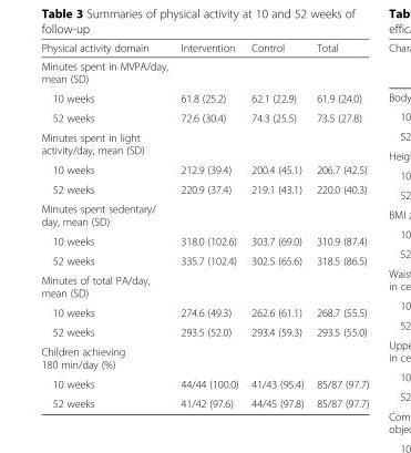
<table><thead><tr><td>Physical activity domain</td><td>Intervention</td><td>Control</td><td>Total</td></tr></thead><tbody><tr><td colspan="4">Minutes spent in MVPA/day, mean (SD)</td></tr><tr><td>10 weeks</td><td>61.8 (25.2)</td><td>62.1 (22.9)</td><td>61.9 (24.0)</td></tr><tr><td>52 weeks</td><td>72.6 (30.4)</td><td>74.3 (25.5)</td><td>73.5 (27.8)</td></tr><tr><td colspan="4">Minutes spent in light activity/day, mean (SD)</td></tr><tr><td>10 weeks</td><td>212.9 (39.4)</td><td>200.4 (45.1)</td><td>206.7 (42.5)</td></tr><tr><td>52 weeks</td><td>220.9 (37.4)</td><td>219.1 (43.1)</td><td>220.0 (40.3)</td></tr><tr><td colspan="4">Minutes spent sedentary/ day, mean (SD)</td></tr><tr><td>10 weeks</td><td>318.0 (102.6)</td><td>303.7 (69.0)</td><td>310.9 (87.4)</td></tr><tr><td>52 weeks</td><td>335.7 (102.4)</td><td>302.5 (65.6)</td><td>318.5 (86.5)</td></tr><tr><td colspan="4">Minutes of total PA/day, mean (SD)</td></tr><tr><td>10 weeks</td><td>274.6 (49.3)</td><td>262.6 (61.1)</td><td>268.7 (55.5)</td></tr><tr><td>52 weeks</td><td>293.5 (52.0)</td><td>293.4 (59.3)</td><td>293.5 (55.0)</td></tr><tr><td colspan="4">Children achieving 180 min/day (%)</td></tr><tr><td>10 weeks</td><td>44/44 (100.0)</td><td>41/43 (95.4)</td><td>85/87 (97.7)</td></tr><tr><td>52 weeks</td><td>41/42 (97.6)</td><td>44/45 (97.8)</td><td>85/87 (97.7)</td></tr></tbody></table>